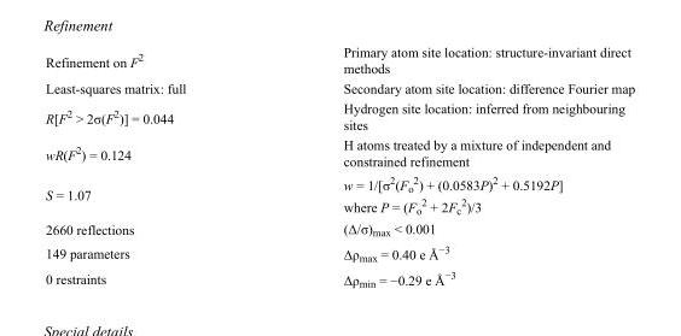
<table><tbody><tr><td>Refinement on F<sup>2</sup></td><td>Primary atom site location: structure-invariant direct methods</td></tr><tr><td>Least-squares matrix: full</td><td>Secondary atom site location: difference Fourier map</td></tr><tr><td>R[F<sup>2</sup> &gt; 2σ(F<sup>2</sup>)] = 0.044</td><td>Hydrogen site location: inferred from neighbouring sites</td></tr><tr><td>wR(F<sup>2</sup>) = 0.124</td><td>H atoms treated by a mixture of independent and constrained refinement</td></tr><tr><td>S = 1.07</td><td>w = 1/[σ<sup>2</sup>(F<sub>o</sub> <sup>2</sup>) + (0.0583P)<sup>2</sup> + 0.5192P] where P = (F<sub>o</sub> <sup>2</sup> + 2F<sub>c</sub> <sup>2</sup>)/3</td></tr><tr><td>2660 reflections</td><td>(Δ/σ)<sub>max</sub> &lt; 0.001</td></tr><tr><td>149 parameters</td><td>Δρ<sub>max</sub> = 0.40 e Å<sup>−3</sup></td></tr><tr><td>0 restraints</td><td>Δρ<sub>min</sub> = −0.29 e Å<sup>−3</sup></td></tr></tbody></table>